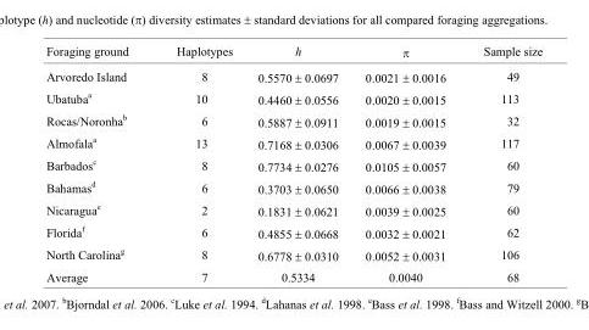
<table><thead><tr><td>Foraging ground</td><td>Haplotypes</td><td>h</td><td>π</td><td>Sample size</td></tr></thead><tbody><tr><td>Arvoredo Island</td><td>8</td><td>0.5570 ± 0.0697</td><td>0.0021 ± 0.0016</td><td>49</td></tr><tr><td>Ubatuba<sup>a</sup></td><td>10</td><td>0.4460 ± 0.0556</td><td>0.0020 ± 0.0015</td><td>113</td></tr><tr><td>Rocas/Noronha<sup>b</sup></td><td>6</td><td>0.5887 ± 0.0911</td><td>0.0019 ± 0.0015</td><td>32</td></tr><tr><td>Almofala<sup>a</sup></td><td>13</td><td>0.7168 ± 0.0306</td><td>0.0067 ± 0.0039</td><td>117</td></tr><tr><td>Barbados<sup>c</sup></td><td>8</td><td>0.7734 ± 0.0276</td><td>0.0105 ± 0.0057</td><td>60</td></tr><tr><td>Bahamas<sup>d</sup></td><td>6</td><td>0.3703 ± 0.0650</td><td>0.0066 ± 0.0038</td><td>79</td></tr><tr><td>Nicaragua<sup>e</sup></td><td>2</td><td>0.1831 ± 0.0621</td><td>0.0039 ± 0.0025</td><td>60</td></tr><tr><td>Florida<sup>f</sup></td><td>6</td><td>0.4855 ± 0.0668</td><td>0.0032 ± 0.0021</td><td>62</td></tr><tr><td>North Carolina<sup>g</sup></td><td>8</td><td>0.6778 ± 0.0310</td><td>0.0052 ± 0.0031</td><td>106</td></tr><tr><td>Average</td><td>7</td><td>0.5334</td><td>0.0040</td><td>68</td></tr></tbody></table>